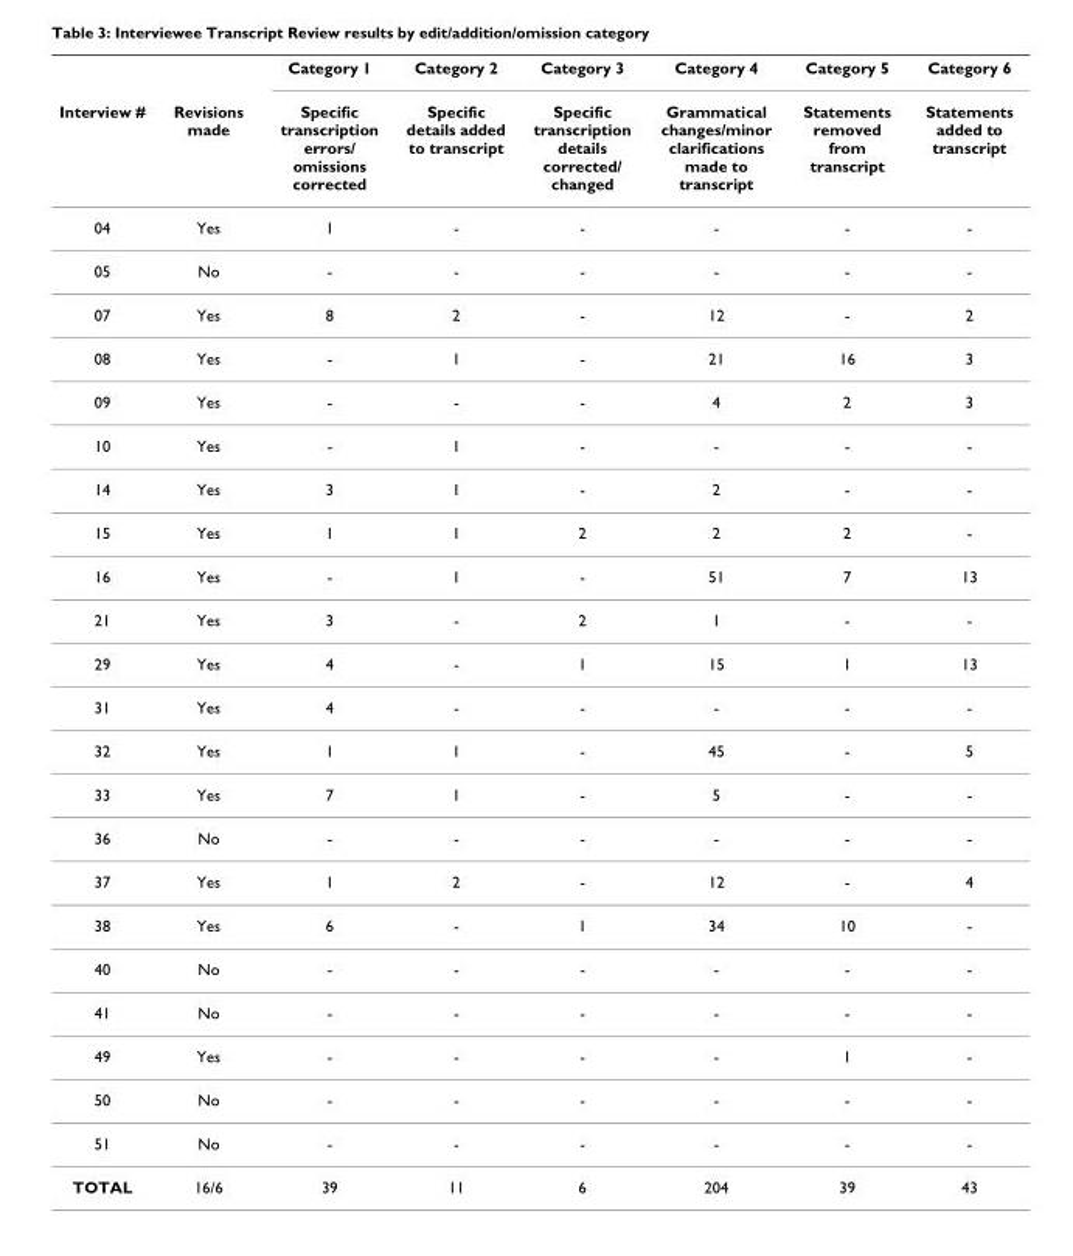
<table><thead><tr><td rowspan="2">Interview #</td><td rowspan="2">Revisions made</td><td rowspan="2">Category 1 Specific transcription errors/ omissions corrected</td><td rowspan="2">Category 2 Specific details added to transcript</td><td rowspan="2">Category 3 Specific transcription details corrected/ changed</td><td rowspan="2">Category 4 Grammatical changes/minor clarifications made to transcript</td><td rowspan="2">Category 5 Statements removed from transcript</td><td rowspan="2">Category 6 Statements added to transcript</td></tr><tr></tr></thead><tbody><tr><td>04</td><td>Yes</td><td>1</td><td>-</td><td>-</td><td>-</td><td>-</td><td>-</td></tr><tr><td>05</td><td>No</td><td>-</td><td>-</td><td>-</td><td>-</td><td>-</td><td>-</td></tr><tr><td>07</td><td>Yes</td><td>8</td><td>2</td><td>-</td><td>12</td><td>-</td><td>2</td></tr><tr><td>08</td><td>Yes</td><td>-</td><td>1</td><td>-</td><td>21</td><td>16</td><td>3</td></tr><tr><td>09</td><td>Yes</td><td>-</td><td>-</td><td>-</td><td>4</td><td>2</td><td>3</td></tr><tr><td>10</td><td>Yes</td><td>-</td><td>1</td><td>-</td><td>-</td><td>-</td><td>-</td></tr><tr><td>14</td><td>Yes</td><td>3</td><td>1</td><td>-</td><td>2</td><td>-</td><td>-</td></tr><tr><td>15</td><td>Yes</td><td>1</td><td>1</td><td>2</td><td>2</td><td>2</td><td>-</td></tr><tr><td>16</td><td>Yes</td><td>-</td><td>1</td><td>-</td><td>51</td><td>7</td><td>13</td></tr><tr><td>21</td><td>Yes</td><td>3</td><td>-</td><td>2</td><td>1</td><td>-</td><td>-</td></tr><tr><td>29</td><td>Yes</td><td>4</td><td>-</td><td>1</td><td>15</td><td>1</td><td>13</td></tr><tr><td>31</td><td>Yes</td><td>4</td><td>-</td><td>-</td><td>-</td><td>-</td><td>-</td></tr><tr><td>32</td><td>Yes</td><td>1</td><td>1</td><td>-</td><td>45</td><td>-</td><td>5</td></tr><tr><td>33</td><td>Yes</td><td>7</td><td>1</td><td>-</td><td>5</td><td>-</td><td>-</td></tr><tr><td>36</td><td>No</td><td>-</td><td>-</td><td>-</td><td>-</td><td>-</td><td>-</td></tr><tr><td>37</td><td>Yes</td><td>1</td><td>2</td><td>-</td><td>12</td><td>-</td><td>4</td></tr><tr><td>38</td><td>Yes</td><td>6</td><td>-</td><td>1</td><td>34</td><td>10</td><td>-</td></tr><tr><td>40</td><td>No</td><td>-</td><td>-</td><td>-</td><td>-</td><td>-</td><td>-</td></tr><tr><td>41</td><td>No</td><td>-</td><td>-</td><td>-</td><td>-</td><td>-</td><td>-</td></tr><tr><td>49</td><td>Yes</td><td>-</td><td>-</td><td>-</td><td>-</td><td>1</td><td>-</td></tr><tr><td>50</td><td>No</td><td>-</td><td>-</td><td>-</td><td>-</td><td>-</td><td>-</td></tr><tr><td>51</td><td>No</td><td>-</td><td>-</td><td>-</td><td>-</td><td>-</td><td>-</td></tr><tr><td>TOTAL</td><td>16/6</td><td>39</td><td>11</td><td>6</td><td>204</td><td>39</td><td>43</td></tr></tbody></table>